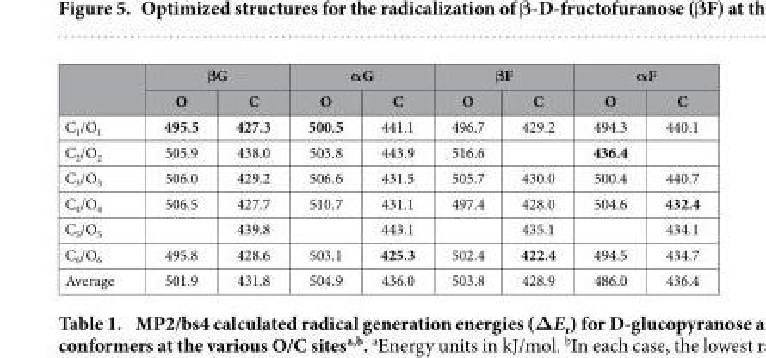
<table><thead><tr><td rowspan="2"></td><td colspan="2">βG</td><td colspan="2">αG</td><td colspan="2">βF</td><td colspan="2">αF</td></tr><tr><td>O</td><td>C</td><td>O</td><td>C</td><td>O</td><td>C</td><td>O</td><td>C</td></tr></thead><tbody><tr><td>C<sub>1</sub>/O<sub>1</sub></td><td>495.5</td><td>427.3</td><td>500.5</td><td>441.1</td><td>496.7</td><td>429.2</td><td>494.3</td><td>440.1</td></tr><tr><td>C<sub>2</sub>/O<sub>2</sub></td><td>505.9</td><td>438.0</td><td>503.8</td><td>443.9</td><td>516.6</td><td></td><td>436.4</td><td></td></tr><tr><td>C<sub>3</sub>/O<sub>3</sub></td><td>506.0</td><td>429.2</td><td>506.6</td><td>431.5</td><td>505.7</td><td>430.0</td><td>500.4</td><td>440.7</td></tr><tr><td>C<sub>4</sub>/O<sub>4</sub></td><td>506.5</td><td>427.7</td><td>510.7</td><td>431.1</td><td>497.4</td><td>428.0</td><td>504.6</td><td>432.4</td></tr><tr><td>C<sub>5</sub>/O<sub>5</sub></td><td></td><td>439.8</td><td></td><td>443.1</td><td></td><td>435.1</td><td></td><td>434.1</td></tr><tr><td>C<sub>6</sub>/O<sub>6</sub></td><td>495.8</td><td>428.6</td><td>503.1</td><td>425.3</td><td>502.4</td><td>422.4</td><td>494.5</td><td>434.7</td></tr><tr><td>Average</td><td>501.9</td><td>431.8</td><td>504.9</td><td>436.0</td><td>503.8</td><td>428.9</td><td>486.0</td><td>436.4</td></tr></tbody></table>